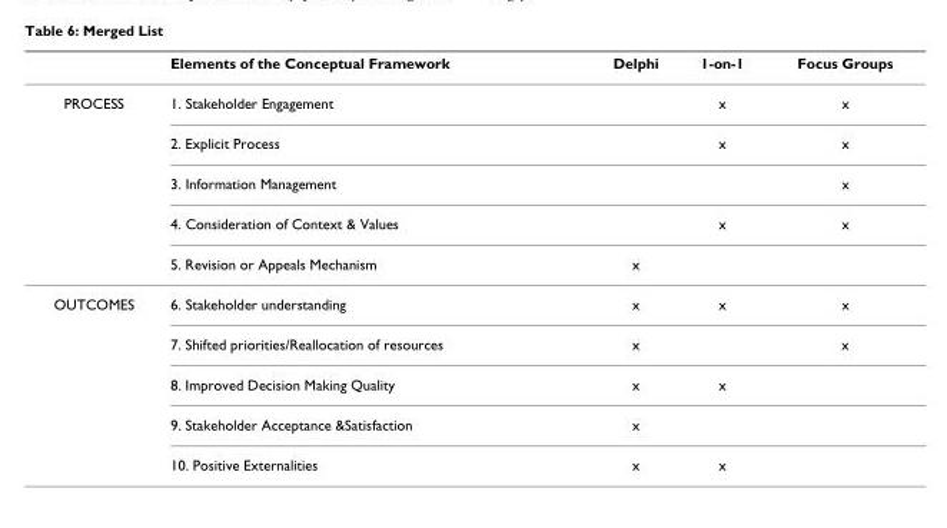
<table><thead><tr><td></td><td>Elements of the Conceptual Framework</td><td>Delphi</td><td>1-on-1</td><td>Focus Groups</td></tr></thead><tbody><tr><td rowspan="5">PROCESS</td><td>1. Stakeholder Engagement</td><td></td><td>x</td><td>x</td></tr><tr><td>2. Explicit Process</td><td></td><td>x</td><td>x</td></tr><tr><td>3. Information Management</td><td></td><td></td><td>x</td></tr><tr><td>4. Consideration of Context &amp; Values</td><td></td><td>x</td><td>x</td></tr><tr><td>5. Revision or Appeals Mechanism</td><td>x</td><td></td><td></td></tr><tr><td rowspan="5">OUTCOMES</td><td>6. Stakeholder understanding</td><td>x</td><td>x</td><td>x</td></tr><tr><td>7. Shifted priorities/Reallocation of resources</td><td>x</td><td></td><td>x</td></tr><tr><td>8. Improved Decision Making Quality</td><td>x</td><td>x</td><td></td></tr><tr><td>9. Stakeholder Acceptance &amp;Satisfaction</td><td>x</td><td></td><td></td></tr><tr><td>10. Positive Externalities</td><td>x</td><td>x</td><td></td></tr></tbody></table>